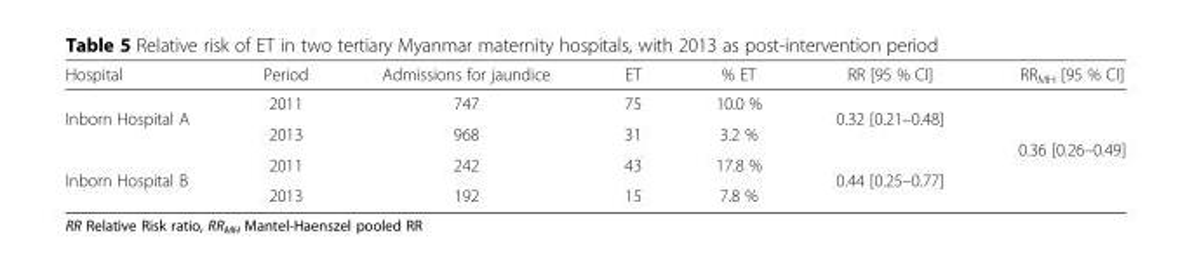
<table><thead><tr><td>Hospital</td><td>Period</td><td>Admissions for jaundice</td><td>ET</td><td>% ET</td><td>RR [95 % CI]</td><td>RR<sub>MH</sub> [95 % CI]</td></tr></thead><tbody><tr><td rowspan="2">Inborn Hospital A</td><td>2011</td><td>747</td><td>75</td><td>10.0 %</td><td rowspan="2">0.32 [0.21–0.48]</td><td rowspan="4">0.36 [0.26–0.49]</td></tr><tr><td>2013</td><td>968</td><td>31</td><td>3.2 %</td></tr><tr><td rowspan="2">Inborn Hospital B</td><td>2011</td><td>242</td><td>43</td><td>17.8 %</td><td rowspan="2">0.44 [0.25–0.77]</td></tr><tr><td>2013</td><td>192</td><td>15</td><td>7.8 %</td></tr></tbody></table>